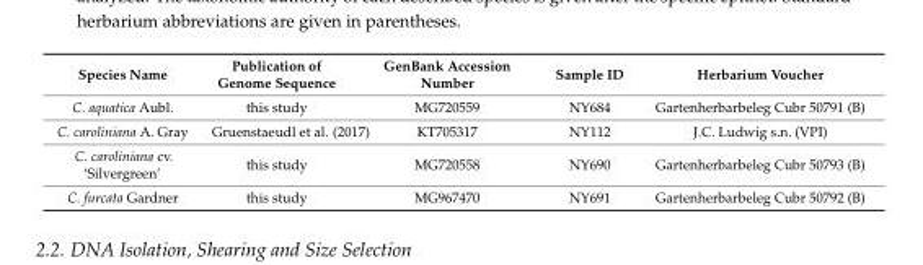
<table><thead><tr><td>Species Name</td><td>Publication of Genome Sequence</td><td>GenBank Accession Number</td><td>Sample ID</td><td>Herbarium Voucher</td></tr></thead><tbody><tr><td>C. aquatica Aubl.</td><td>this study</td><td>MG720559</td><td>NY684</td><td>Gartenherbarbeleg Cubr 50791 (B)</td></tr><tr><td>C. caroliniana A. Gray</td><td>Gruenstaeudl et al. (2017)</td><td>KT705317</td><td>NY112</td><td>J.C. Ludwig s.n. (VPI)</td></tr><tr><td>C. caroliniana cv. ‘Silvergreen’</td><td>this study</td><td>MG720558</td><td>NY690</td><td>Gartenherbarbeleg Cubr 50793 (B)</td></tr><tr><td>C. furcata Gardner</td><td>this study</td><td>MG967470</td><td>NY691</td><td>Gartenherbarbeleg Cubr 50792 (B)</td></tr></tbody></table>